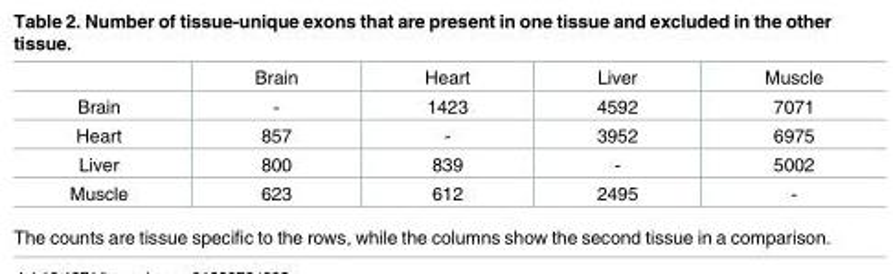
<table><thead><tr><td></td><td>Brain</td><td>Heart</td><td>Liver</td><td>Muscle</td></tr></thead><tbody><tr><td>Brain</td><td>-</td><td>1423</td><td>4592</td><td>7071</td></tr><tr><td>Heart</td><td>857</td><td>-</td><td>3952</td><td>6975</td></tr><tr><td>Liver</td><td>800</td><td>839</td><td>-</td><td>5002</td></tr><tr><td>Muscle</td><td>623</td><td>612</td><td>2495</td><td>-</td></tr></tbody></table>